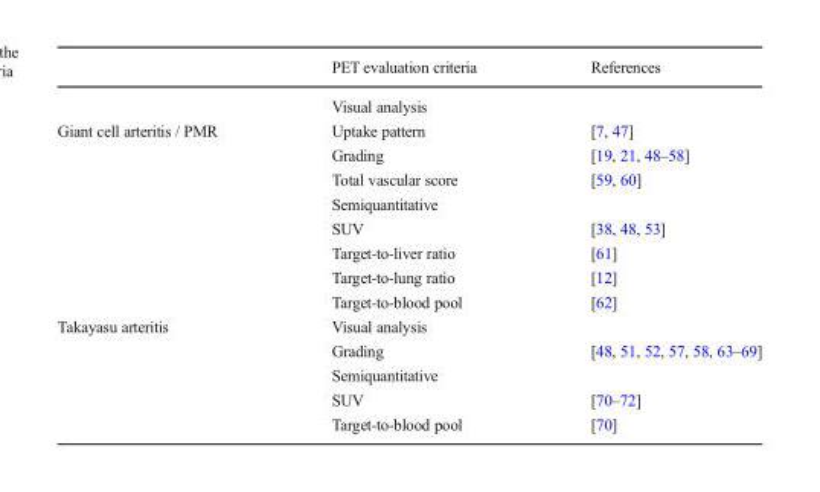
<table><thead><tr><td></td><td>PET evaluation criteria</td><td>References</td></tr></thead><tbody><tr><td></td><td>Visual analysis</td><td></td></tr><tr><td rowspan="8">Giant cell arteritis / PMR</td><td>Uptake pattern</td><td>[7, 47]</td></tr><tr><td>Grading</td><td>[19, 21, 48–58]</td></tr><tr><td>Total vascular score</td><td>[59, 60]</td></tr><tr><td colspan="2">Semiquantitative</td></tr><tr><td>SUV</td><td>[38, 48, 53]</td></tr><tr><td>Target-to-liver ratio</td><td>[61]</td></tr><tr><td>Target-to-lung ratio</td><td>[12]</td></tr><tr><td>Target-to-blood pool</td><td>[62]</td></tr><tr><td rowspan="5">Takayasu arteritis</td><td colspan="2">Visual analysis</td></tr><tr><td>Grading</td><td>[48, 51, 52, 57, 58, 63–69]</td></tr><tr><td colspan="2">Semiquantitative</td></tr><tr><td>SUV</td><td>[70–72]</td></tr><tr><td>Target-to-blood pool</td><td>[70]</td></tr></tbody></table>